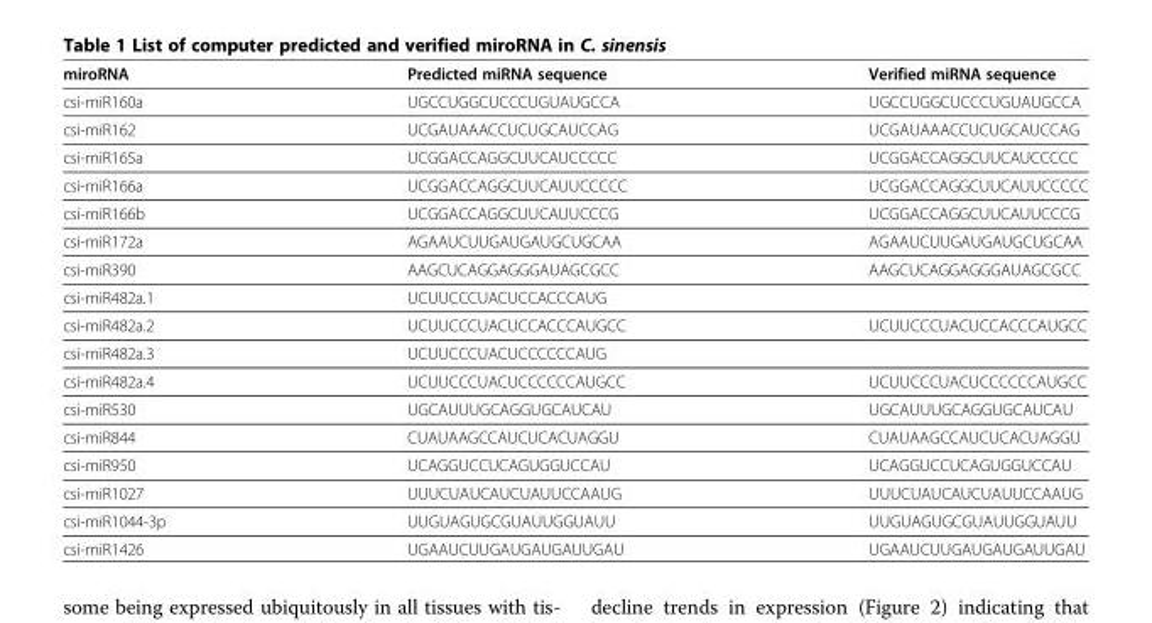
<table><thead><tr><td>miroRNA</td><td>Predicted miRNA sequence</td><td>Verified miRNA sequence</td></tr></thead><tbody><tr><td>csi-miR160a</td><td>UGCCUGGCUCCCUGUAUGCCA</td><td>UGCCUGGCUCCCUGUAUGCCA</td></tr><tr><td>csi-miR162</td><td>UCGAUAAACCUCUGCAUCCAG</td><td>UCGAUAAACCUCUGCAUCCAG</td></tr><tr><td>csi-miR165a</td><td>UCGGACCAGGCUUCAUCCCCC</td><td>UCGGACCAGGCUUCAUCCCCC</td></tr><tr><td>csi-miR166a</td><td>UCGGACCAGGCUUCAUUCCCCC</td><td>UCGGACCAGGCUUCAUUCCCCC</td></tr><tr><td>csi-miR166b</td><td>UCGGACCAGGCUUCAUUCCCG</td><td>UCGGACCAGGCUUCAUUCCCG</td></tr><tr><td>csi-miR172a</td><td>AGAAUCUUGAUGAUGCUGCAA</td><td>AGAAUCUUGAUGAUGCUGCAA</td></tr><tr><td>csi-miR390</td><td>AAGCUCAGGAGGGAUAGCGCC</td><td>AAGCUCAGGAGGGAUAGCGCC</td></tr><tr><td>csi-miR482a.1</td><td>UCUUCCCUACUCCACCCAUG</td><td></td></tr><tr><td>csi-miR482a.2</td><td>UCUUCCCUACUCCACCCAUGCC</td><td>UCUUCCCUACUCCACCCAUGCC</td></tr><tr><td>csi-miR482a.3</td><td>UCUUCCCUACUCCCCCCAUG</td><td></td></tr><tr><td>csi-miR482a.4</td><td>UCUUCCCUACUCCCCCCAUGCC</td><td>UCUUCCCUACUCCCCCCAUGCC</td></tr><tr><td>csi-miR530</td><td>UGCAUUUGCAGGUGCAUCAU</td><td>UGCAUUUGCAGGUGCAUCAU</td></tr><tr><td>csi-miR844</td><td>CUAUAAGCCAUCUCACUAGGU</td><td>CUAUAAGCCAUCUCACUAGGU</td></tr><tr><td>csi-miR950</td><td>UCAGGUCCUCAGUGGUCCAU</td><td>UCAGGUCCUCAGUGGUCCAU</td></tr><tr><td>csi-miR1027</td><td>UUUCUAUCAUCUAUUCCAAUG</td><td>UUUCUAUCAUCUAUUCCAAUG</td></tr><tr><td>csi-miR1044-3p</td><td>UUGUAGUGCGUAUUGGUAUU</td><td>UUGUAGUGCGUAUUGGUAUU</td></tr><tr><td>csi-miR1426</td><td>UGAAUCUUGAUGAUGAUUGAU</td><td>UGAAUCUUGAUGAUGAUUGAU</td></tr></tbody></table>